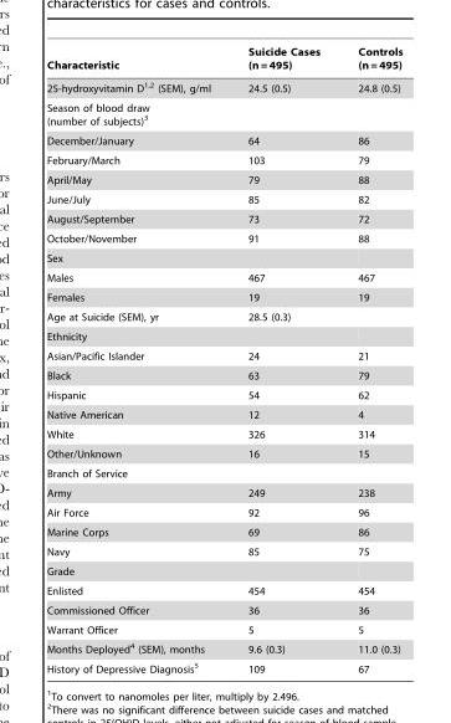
<table><thead><tr><td>Characteristic</td><td>Suicide Cases (n = 495)</td><td>Controls (n = 495)</td></tr></thead><tbody><tr><td>25-hydroxyvitamin D<sup>1,2</sup> (SEM), g/ml</td><td>24.5 (0.5)</td><td>24.8 (0.5)</td></tr><tr><td colspan="3">Season of blood draw (number of subjects)<sup>3</sup></td></tr><tr><td>December/January</td><td>64</td><td>86</td></tr><tr><td>February/March</td><td>103</td><td>79</td></tr><tr><td>April/May</td><td>79</td><td>88</td></tr><tr><td>June/July</td><td>85</td><td>82</td></tr><tr><td>August/September</td><td>73</td><td>72</td></tr><tr><td>October/November</td><td>91</td><td>88</td></tr><tr><td colspan="3">Sex</td></tr><tr><td>Males</td><td>467</td><td>467</td></tr><tr><td>Females</td><td>19</td><td>19</td></tr><tr><td>Age at Suicide (SEM), yr</td><td>28.5 (0.3)</td><td></td></tr><tr><td colspan="3">Ethnicity</td></tr><tr><td>Asian/Pacific Islander</td><td>24</td><td>21</td></tr><tr><td>Black</td><td>63</td><td>79</td></tr><tr><td>Hispanic</td><td>54</td><td>62</td></tr><tr><td>Native American</td><td>12</td><td>4</td></tr><tr><td>White</td><td>326</td><td>314</td></tr><tr><td>Other/Unknown</td><td>16</td><td>15</td></tr><tr><td colspan="3">Branch of Service</td></tr><tr><td>Army</td><td>249</td><td>238</td></tr><tr><td>Air Force</td><td>92</td><td>96</td></tr><tr><td>Marine Corps</td><td>69</td><td>86</td></tr><tr><td>Navy</td><td>85</td><td>75</td></tr><tr><td colspan="3">Grade</td></tr><tr><td>Enlisted</td><td>454</td><td>454</td></tr><tr><td>Commissioned Officer</td><td>36</td><td>36</td></tr><tr><td>Warrant Officer</td><td>5</td><td>5</td></tr><tr><td>Months Deployed<sup>4</sup> (SEM), months</td><td>9.6 (0.3)</td><td>11.0 (0.3)</td></tr><tr><td>History of Depressive Diagnosis<sup>5</sup></td><td>109</td><td>67</td></tr></tbody></table>